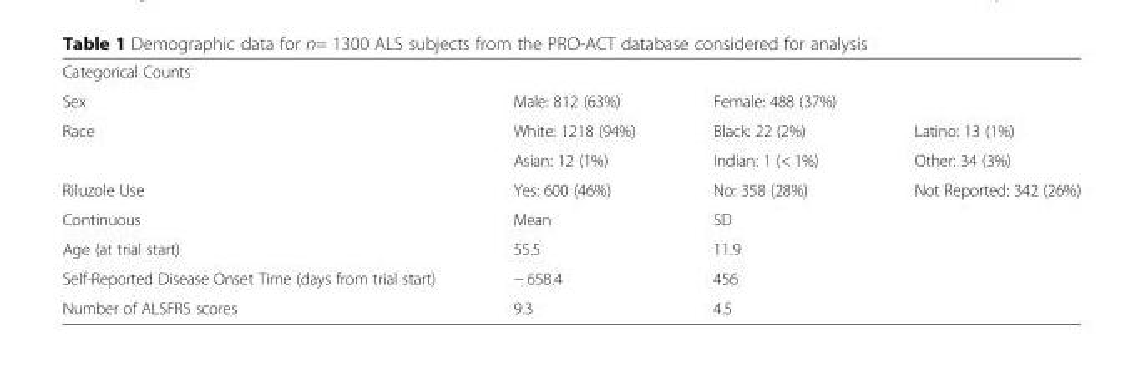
<table><tbody><tr><td colspan="4">Categorical Counts</td></tr><tr><td>Sex</td><td>Male: 812 (63%)</td><td>Female: 488 (37%)</td><td></td></tr><tr><td rowspan="2">Race</td><td>White: 1218 (94%)</td><td>Black: 22 (2%)</td><td>Latino: 13 (1%)</td></tr><tr><td>Asian: 12 (1%)</td><td>Indian: 1 (&lt; 1%)</td><td>Other: 34 (3%)</td></tr><tr><td>Riluzole Use</td><td>Yes: 600 (46%)</td><td>No: 358 (28%)</td><td>Not Reported: 342 (26%)</td></tr><tr><td>Continuous</td><td>Mean</td><td>SD</td><td></td></tr><tr><td>Age (at trial start)</td><td>55.5</td><td>11.9</td><td></td></tr><tr><td>Self-Reported Disease Onset Time (days from trial start)</td><td>− 658.4</td><td>456</td><td></td></tr><tr><td>Number of ALSFRS scores</td><td>9.3</td><td>4.5</td><td></td></tr></tbody></table>